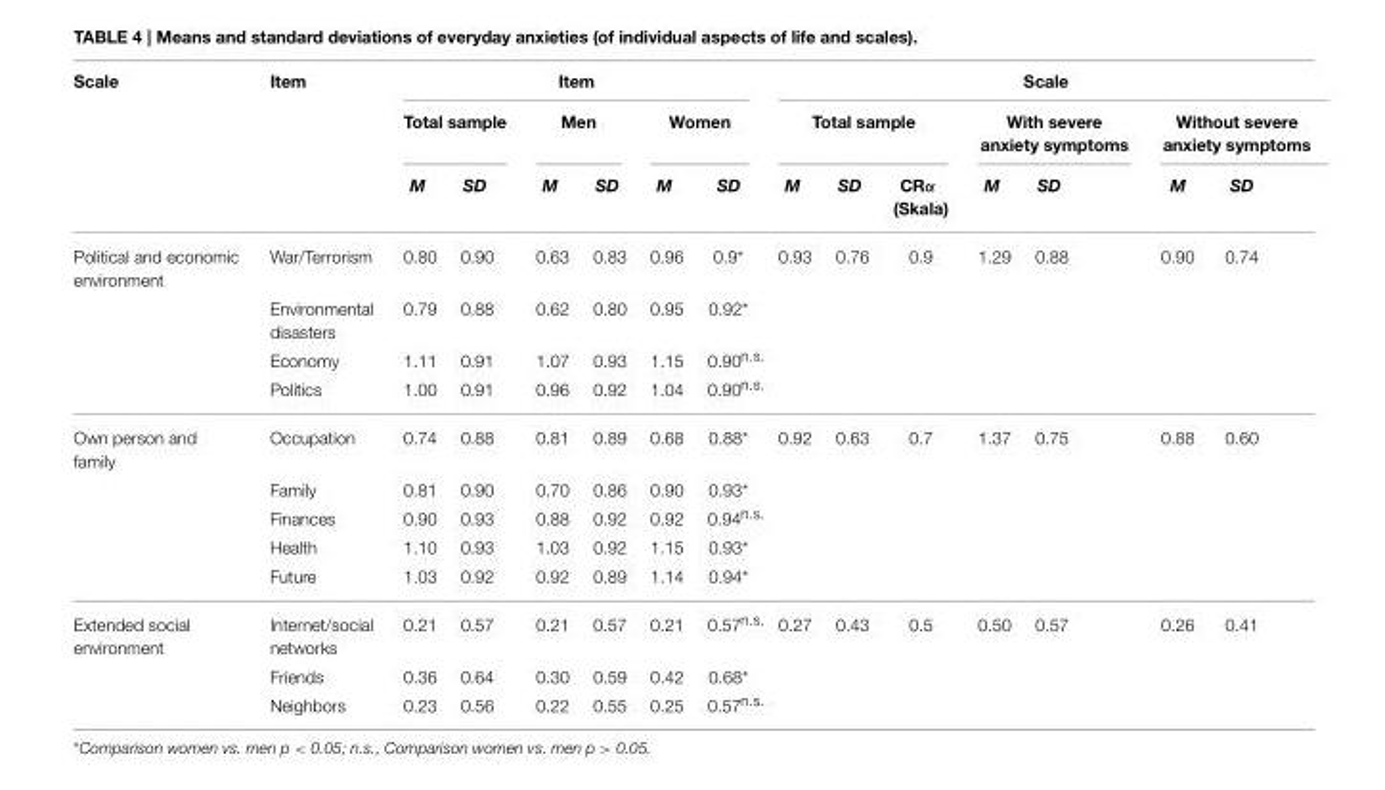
<table><thead><tr><td rowspan="3">Scale</td><td rowspan="3">Item</td><td colspan="6">Item</td><td colspan="7">Scale</td></tr><tr><td colspan="2">Total sample</td><td colspan="2">Men</td><td colspan="2">Women</td><td colspan="3">Total sample</td><td colspan="2">With severe anxiety symptoms</td><td colspan="2">Without severe anxiety symptoms</td></tr><tr><td>M</td><td>SD</td><td>M</td><td>SD</td><td>M</td><td>SD</td><td>M</td><td>SD</td><td>CRα (Skala)</td><td>M</td><td>SD</td><td>M</td><td>SD</td></tr></thead><tbody><tr><td rowspan="4">Political and economic environment</td><td>War/Terrorism</td><td>0.80</td><td>0.90</td><td>0.63</td><td>0.83</td><td>0.96</td><td>0.9*</td><td>0.93</td><td>0.76</td><td>0.9</td><td>1.29</td><td>0.88</td><td>0.90</td><td>0.74</td></tr><tr><td>Environmental disasters</td><td>0.79</td><td>0.88</td><td>0.62</td><td>0.80</td><td>0.95</td><td>0.92*</td><td></td><td></td><td></td><td></td><td></td><td></td><td></td></tr><tr><td>Economy</td><td>1.11</td><td>0.91</td><td>1.07</td><td>0.93</td><td>1.15</td><td>0.90<sup>n.s.</sup></td><td></td><td></td><td></td><td></td><td></td><td></td><td></td></tr><tr><td>Politics</td><td>1.00</td><td>0.91</td><td>0.96</td><td>0.92</td><td>1.04</td><td>0.90<sup>n.s.</sup></td><td></td><td></td><td></td><td></td><td></td><td></td><td></td></tr><tr><td rowspan="5">Own person and family</td><td>Occupation</td><td>0.74</td><td>0.88</td><td>0.81</td><td>0.89</td><td>0.68</td><td>0.88*</td><td>0.92</td><td>0.63</td><td>0.7</td><td>1.37</td><td>0.75</td><td>0.88</td><td>0.60</td></tr><tr><td>Family</td><td>0.81</td><td>0.90</td><td>0.70</td><td>0.86</td><td>0.90</td><td>0.93*</td><td></td><td></td><td></td><td></td><td></td><td></td><td></td></tr><tr><td>Finances</td><td>0.90</td><td>0.93</td><td>0.88</td><td>0.92</td><td>0.92</td><td>0.94<sup>n.s.</sup></td><td></td><td></td><td></td><td></td><td></td><td></td><td></td></tr><tr><td>Health</td><td>1.10</td><td>0.93</td><td>1.03</td><td>0.92</td><td>1.15</td><td>0.93*</td><td></td><td></td><td></td><td></td><td></td><td></td><td></td></tr><tr><td>Future</td><td>1.03</td><td>0.92</td><td>0.92</td><td>0.89</td><td>1.14</td><td>0.94*</td><td></td><td></td><td></td><td></td><td></td><td></td><td></td></tr><tr><td rowspan="3">Extended social environment</td><td>Internet/social networks</td><td>0.21</td><td>0.57</td><td>0.21</td><td>0.57</td><td>0.21</td><td>0.57<sup>n.s.</sup></td><td>0.27</td><td>0.43</td><td>0.5</td><td>0.50</td><td>0.57</td><td>0.26</td><td>0.41</td></tr><tr><td>Friends</td><td>0.36</td><td>0.64</td><td>0.30</td><td>0.59</td><td>0.42</td><td>0.68*</td><td></td><td></td><td></td><td></td><td></td><td></td><td></td></tr><tr><td>Neighbors</td><td>0.23</td><td>0.56</td><td>0.22</td><td>0.55</td><td>0.25</td><td>0.57<sup>n.s.</sup></td><td></td><td></td><td></td><td></td><td></td><td></td><td></td></tr></tbody></table>